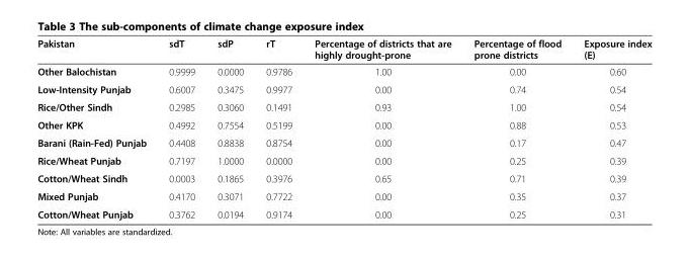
<table><thead><tr><td>Pakistan</td><td>sdT</td><td>sdP</td><td>rT</td><td>Percentage of districts that are highly drought-prone</td><td>Percentage of flood prone districts</td><td>Exposure index (E)</td></tr></thead><tbody><tr><td>Other Balochistan</td><td>0.9999</td><td>0.0000</td><td>0.9786</td><td>1.00</td><td>0.00</td><td>0.60</td></tr><tr><td>Low-Intensity Punjab</td><td>0.6007</td><td>0.3475</td><td>0.9977</td><td>0.00</td><td>0.74</td><td>0.54</td></tr><tr><td>Rice/Other Sindh</td><td>0.2985</td><td>0.3060</td><td>0.1491</td><td>0.93</td><td>1.00</td><td>0.54</td></tr><tr><td>Other KPK</td><td>0.4992</td><td>0.7554</td><td>0.5199</td><td>0.00</td><td>0.88</td><td>0.53</td></tr><tr><td>Barani (Rain-Fed) Punjab</td><td>0.4408</td><td>0.8838</td><td>0.8754</td><td>0.00</td><td>0.17</td><td>0.47</td></tr><tr><td>Rice/Wheat Punjab</td><td>0.7197</td><td>1.0000</td><td>0.0000</td><td>0.00</td><td>0.25</td><td>0.39</td></tr><tr><td>Cotton/Wheat Sindh</td><td>0.0003</td><td>0.1865</td><td>0.3976</td><td>0.65</td><td>0.71</td><td>0.39</td></tr><tr><td>Mixed Punjab</td><td>0.4170</td><td>0.3071</td><td>0.7722</td><td>0.00</td><td>0.35</td><td>0.37</td></tr><tr><td>Cotton/Wheat Punjab</td><td>0.3762</td><td>0.0194</td><td>0.9174</td><td>0.00</td><td>0.25</td><td>0.31</td></tr></tbody></table>